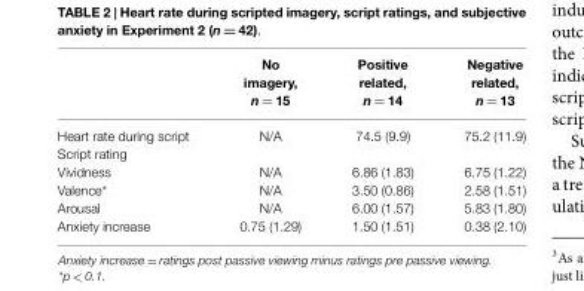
<table><thead><tr><td></td><td>No imagery, n = 15</td><td>Positive related, n = 14</td><td>Negative related, n = 13</td></tr></thead><tbody><tr><td>Heart rate during script</td><td>N/A</td><td>74.5 (9.9)</td><td>75.2 (11.9)</td></tr><tr><td colspan="4">Script rating</td></tr><tr><td>Vividness</td><td>N/A</td><td>6.86 (1.83)</td><td>6.75 (1.22)</td></tr><tr><td>Valence*</td><td>N/A</td><td>3.50 (0.86)</td><td>2.58 (1.51)</td></tr><tr><td>Arousal</td><td>N/A</td><td>6.00 (1.57)</td><td>5.83 (1.80)</td></tr><tr><td>Anxiety increase</td><td>0.75 (1.29)</td><td>1.50 (1.51)</td><td>0.38 (2.10)</td></tr></tbody></table>